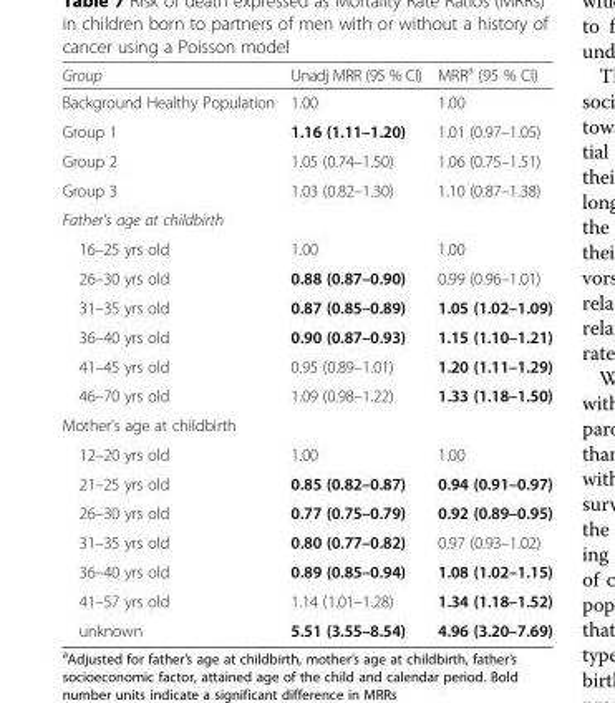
<table><thead><tr><td>Group</td><td>Unadj MRR (95 % CI)</td><td>MRR<sup>a</sup> (95 % CI)</td></tr></thead><tbody><tr><td>Background Healthy Population</td><td>1.00</td><td>1.00</td></tr><tr><td>Group 1</td><td>1.16 (1.11–1.20)</td><td>1.01 (0.97–1.05)</td></tr><tr><td>Group 2</td><td>1.05 (0.74–1.50)</td><td>1.06 (0.75–1.51)</td></tr><tr><td>Group 3</td><td>1.03 (0.82–1.30)</td><td>1.10 (0.87–1.38)</td></tr><tr><td colspan="3">Father&#x27;s age at childbirth</td></tr><tr><td>16–25 yrs old</td><td>1.00</td><td>1.00</td></tr><tr><td>26–30 yrs old</td><td>0.88 (0.87–0.90)</td><td>0.99 (0.96–1.01)</td></tr><tr><td>31–35 yrs old</td><td>0.87 (0.85–0.89)</td><td>1.05 (1.02–1.09)</td></tr><tr><td>36–40 yrs old</td><td>0.90 (0.87–0.93)</td><td>1.15 (1.10–1.21)</td></tr><tr><td>41–45 yrs old</td><td>0.95 (0.89–1.01)</td><td>1.20 (1.11–1.29)</td></tr><tr><td>46–70 yrs old</td><td>1.09 (0.98–1.22)</td><td>1.33 (1.18–1.50)</td></tr><tr><td colspan="3">Mother&#x27;s age at childbirth</td></tr><tr><td>12–20 yrs old</td><td>1.00</td><td>1.00</td></tr><tr><td>21–25 yrs old</td><td>0.85 (0.82–0.87)</td><td>0.94 (0.91–0.97)</td></tr><tr><td>26–30 yrs old</td><td>0.77 (0.75–0.79)</td><td>0.92 (0.89–0.95)</td></tr><tr><td>31–35 yrs old</td><td>0.80 (0.77–0.82)</td><td>0.97 (0.93–1.02)</td></tr><tr><td>36–40 yrs old</td><td>0.89 (0.85–0.94)</td><td>1.08 (1.02–1.15)</td></tr><tr><td>41–57 yrs old</td><td>1.14 (1.01–1.28)</td><td>1.34 (1.18–1.52)</td></tr><tr><td>unknown</td><td>5.51 (3.55–8.54)</td><td>4.96 (3.20–7.69)</td></tr></tbody></table>